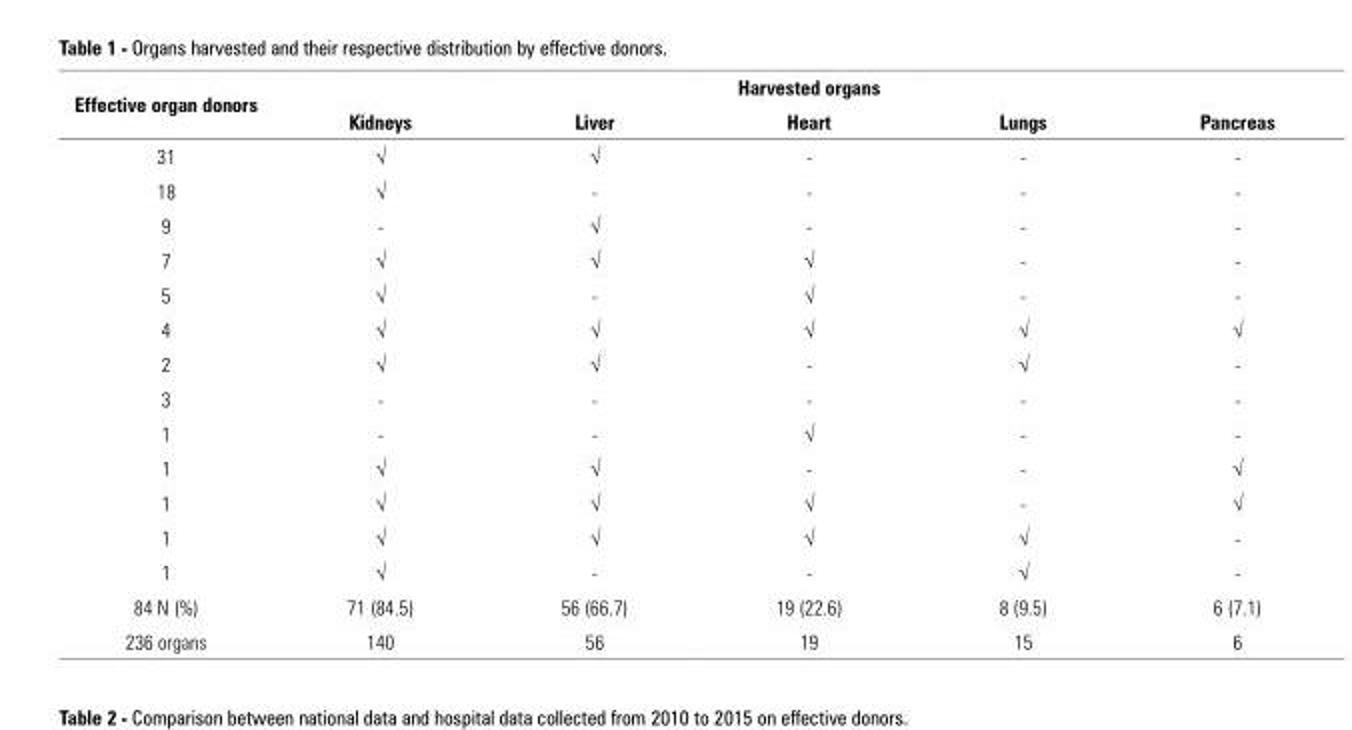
<table><thead><tr><td rowspan="2">Effective organ donors</td><td colspan="5">Harvested organs</td></tr><tr><td>Kidneys</td><td>Liver</td><td>Heart</td><td>Lungs</td><td>Pancreas</td></tr></thead><tbody><tr><td>31</td><td>√</td><td>√</td><td>-</td><td>-</td><td>-</td></tr><tr><td>18</td><td>√</td><td>-</td><td>-</td><td>-</td><td>-</td></tr><tr><td>9</td><td>-</td><td>√</td><td>-</td><td>-</td><td>-</td></tr><tr><td>7</td><td>√</td><td>√</td><td>√</td><td>-</td><td>-</td></tr><tr><td>5</td><td>√</td><td>-</td><td>√</td><td>-</td><td>-</td></tr><tr><td>4</td><td>√</td><td>√</td><td>√</td><td>√</td><td>√</td></tr><tr><td>2</td><td>√</td><td>√</td><td>-</td><td>√</td><td>-</td></tr><tr><td>3</td><td>-</td><td>-</td><td>-</td><td>-</td><td>-</td></tr><tr><td>1</td><td>-</td><td>-</td><td>√</td><td>-</td><td>-</td></tr><tr><td>1</td><td>√</td><td>√</td><td>-</td><td>-</td><td>√</td></tr><tr><td>1</td><td>√</td><td>√</td><td>√</td><td>-</td><td>√</td></tr><tr><td>1</td><td>√</td><td>√</td><td>√</td><td>√</td><td>-</td></tr><tr><td>1</td><td>√</td><td>-</td><td>-</td><td>√</td><td>-</td></tr><tr><td>84 N (%)</td><td>71 (84.5)</td><td>56 (66.7)</td><td>19 (22.6)</td><td>8 (9.5)</td><td>6 (7.1)</td></tr><tr><td>236 organs</td><td>140</td><td>56</td><td>19</td><td>15</td><td>6</td></tr></tbody></table>